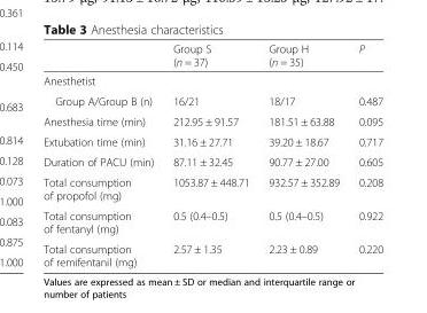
<table><thead><tr><td></td><td>Group S (n = 37)</td><td>Group H (n = 35)</td><td>P</td></tr></thead><tbody><tr><td colspan="4">Anesthetist</td></tr><tr><td>Group A/Group B (n)</td><td>16/21</td><td>18/17</td><td>0.487</td></tr><tr><td>Anesthesia time (min)</td><td>212.95 ± 91.57</td><td>181.51 ± 63.88</td><td>0.095</td></tr><tr><td>Extubation time (min)</td><td>31.16 ± 27.71</td><td>39.20 ± 18.67</td><td>0.717</td></tr><tr><td>Duration of PACU (min)</td><td>87.11 ± 32.45</td><td>90.77 ± 27.00</td><td>0.605</td></tr><tr><td>Total consumption of propofol (mg)</td><td>1053.87 ± 448.71</td><td>932.57 ± 352.89</td><td>0.208</td></tr><tr><td>Total consumption of fentanyl (mg)</td><td>0.5 (0.4–0.5)</td><td>0.5 (0.4–0.5)</td><td>0.922</td></tr><tr><td>Total consumption of remifentanil (mg)</td><td>2.57 ± 1.35</td><td>2.23 ± 0.89</td><td>0.220</td></tr></tbody></table>